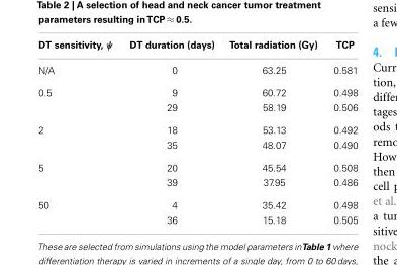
<table><thead><tr><td>DT sensitivity, ψ</td><td>DT duration (days)</td><td>Total radiation (Gy)</td><td>TCP</td></tr></thead><tbody><tr><td>N/A</td><td>0</td><td>63.25</td><td>0.581</td></tr><tr><td rowspan="2">0.5</td><td>9</td><td>60.72</td><td>0.498</td></tr><tr><td>29</td><td>58.19</td><td>0.506</td></tr><tr><td rowspan="2">2</td><td>18</td><td>53.13</td><td>0.492</td></tr><tr><td>35</td><td>48.07</td><td>0.490</td></tr><tr><td rowspan="2">5</td><td>20</td><td>45.54</td><td>0.508</td></tr><tr><td>39</td><td>37.95</td><td>0.486</td></tr><tr><td rowspan="2">50</td><td>4</td><td>35.42</td><td>0.498</td></tr><tr><td>36</td><td>15.18</td><td>0.505</td></tr></tbody></table>